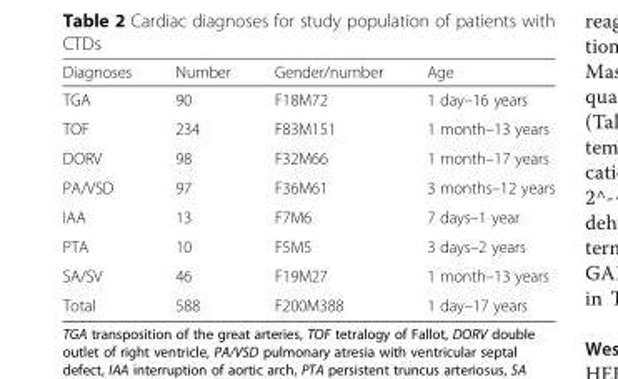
<table><thead><tr><td>Diagnoses</td><td>Number</td><td>Gender/number</td><td>Age</td></tr></thead><tbody><tr><td>TGA</td><td>90</td><td>F18M72</td><td>1 day–16 years</td></tr><tr><td>TOF</td><td>234</td><td>F83M151</td><td>1 month–13 years</td></tr><tr><td>DORV</td><td>98</td><td>F32M66</td><td>1 month–17 years</td></tr><tr><td>PA/VSD</td><td>97</td><td>F36M61</td><td>3 months–12 years</td></tr><tr><td>IAA</td><td>13</td><td>F7M6</td><td>7 days–1 year</td></tr><tr><td>PTA</td><td>10</td><td>F5M5</td><td>3 days–2 years</td></tr><tr><td>SA/SV</td><td>46</td><td>F19M27</td><td>1 month–13 years</td></tr><tr><td>Total</td><td>588</td><td>F200M388</td><td>1 day–17 years</td></tr></tbody></table>